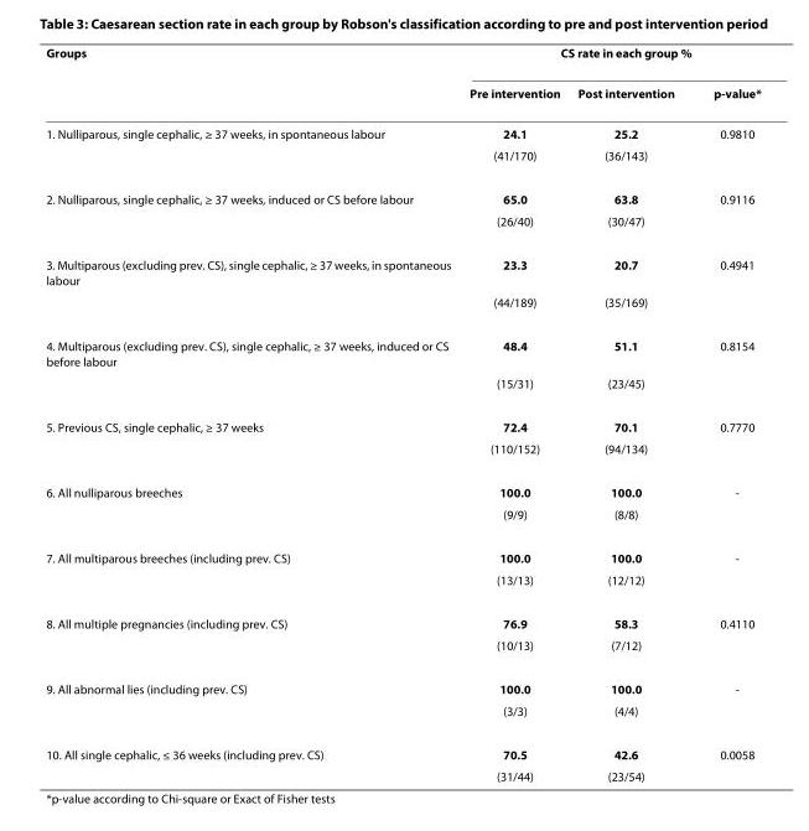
<table><thead><tr><td rowspan="2">Groups</td><td colspan="3">CS rate in each group %</td></tr><tr><td>Pre intervention</td><td>Post intervention</td><td>p-value*</td></tr></thead><tbody><tr><td rowspan="2">1. Nulliparous, single cephalic, ≥ 37 weeks, in spontaneous labour</td><td>24.1</td><td>25.2</td><td>0.9810</td></tr><tr><td>(41/170)</td><td>(36/143)</td><td></td></tr><tr><td rowspan="2">2. Nulliparous, single cephalic, ≥ 37 weeks, induced or CS before labour</td><td>65.0</td><td>63.8</td><td>0.9116</td></tr><tr><td>(26/40)</td><td>(30/47)</td><td></td></tr><tr><td rowspan="2">3. Multiparous (excluding prev. CS), single cephalic, ≥ 37 weeks, in spontaneous labour</td><td>23.3</td><td>20.7</td><td>0.4941</td></tr><tr><td>(44/189)</td><td>(35/169)</td><td></td></tr><tr><td rowspan="2">4. Multiparous (excluding prev. CS), single cephalic, ≥ 37 weeks, induced or CS before labour</td><td>48.4</td><td>51.1</td><td>0.8154</td></tr><tr><td>(15/31)</td><td>(23/45)</td><td></td></tr><tr><td rowspan="2">5. Previous CS, single cephalic, ≥ 37 weeks</td><td>72.4</td><td>70.1</td><td>0.7770</td></tr><tr><td>(110/152)</td><td>(94/134)</td><td></td></tr><tr><td rowspan="2">6. All nulliparous breeches</td><td>100.0</td><td>100.0</td><td>-</td></tr><tr><td>(9/9)</td><td>(8/8)</td><td></td></tr><tr><td rowspan="2">7. All multiparous breeches (including prev. CS)</td><td>100.0</td><td>100.0</td><td>-</td></tr><tr><td>(13/13)</td><td>(12/12)</td><td></td></tr><tr><td rowspan="2">8. All multiple pregnancies (including prev. CS)</td><td>76.9</td><td>58.3</td><td>0.4110</td></tr><tr><td>(10/13)</td><td>(7/12)</td><td></td></tr><tr><td rowspan="2">9. All abnormal lies (including prev. CS)</td><td>100.0</td><td>100.0</td><td>-</td></tr><tr><td>(3/3)</td><td>(4/4)</td><td></td></tr><tr><td rowspan="2">10. All single cephalic, ≤ 36 weeks (including prev. CS)</td><td>70.5</td><td>42.6</td><td>0.0058</td></tr><tr><td>(31/44)</td><td>(23/54)</td><td></td></tr></tbody></table>